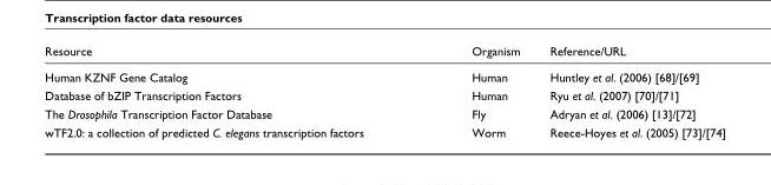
<table><thead><tr><td>Resource</td><td>Organism</td><td>Reference/URL</td></tr></thead><tbody><tr><td>Human KZNF Gene Catalog</td><td>Human</td><td>Huntley et al. (2006) [68]/[69]</td></tr><tr><td>Database of bZIP Transcription Factors</td><td>Human</td><td>Ryu et al. (2007) [70]/[71]</td></tr><tr><td>The Drosophila Transcription Factor Database</td><td>Fly</td><td>Adryan et al. (2006) [13]/[72]</td></tr><tr><td>wTF2.0: a collection of predicted C. elegans transcription factors</td><td>Worm</td><td>Reece-Hoyes et al. (2005) [73]/[74]</td></tr></tbody></table>